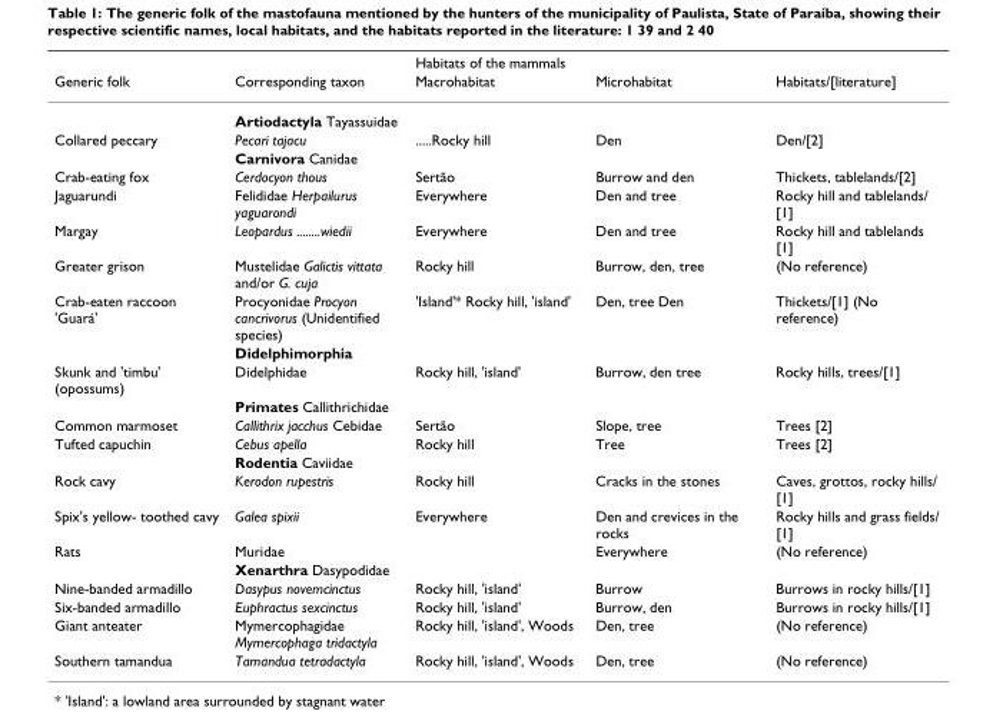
<table><thead><tr><td rowspan="2">Generic folk</td><td rowspan="2">Corresponding taxon</td><td colspan="2">Habitats of the mammals</td><td rowspan="2">Habitats/[literature]</td></tr><tr><td>Macrohabitat</td><td>Microhabitat</td></tr></thead><tbody><tr><td></td><td>Artiodactyla Tayassuidae</td><td></td><td></td><td></td></tr><tr><td rowspan="2">Collared peccary</td><td>Pecari tajacu</td><td>.....Rocky hill</td><td>Den</td><td>Den/[2]</td></tr><tr><td>Carnivora Canidae</td><td></td><td></td><td></td></tr><tr><td>Crab-eating fox</td><td>Cerdocyon thous</td><td>Sertão</td><td>Burrow and den</td><td>Thickets, tablelands/[2]</td></tr><tr><td>Jaguarundi</td><td>Felididae Herpailurus yaguarondi</td><td>Everywhere</td><td>Den and tree</td><td>Rocky hill and tablelands/ [1]</td></tr><tr><td>Margay</td><td>Leopardus ........wiedii</td><td>Everywhere</td><td>Den and tree</td><td>Rocky hill and tablelands [1]</td></tr><tr><td>Greater grison</td><td>Mustelidae Galictis vittata and/or G. cuja</td><td>Rocky hill</td><td>Burrow, den, tree</td><td>(No reference)</td></tr><tr><td rowspan="2">Crab-eaten raccoon &#x27;Guará&#x27;</td><td>Procyonidae Procyon cancrivorus (Unidentified species)</td><td>&#x27;Island&#x27;* Rocky hill, &#x27;island&#x27;</td><td>Den, tree Den</td><td>Thickets/[1] (No reference)</td></tr><tr><td>Didelphimorphia</td><td></td><td></td><td></td></tr><tr><td rowspan="2">Skunk and &#x27;timbu&#x27; (opossums)</td><td>Didelphidae</td><td>Rocky hill, &#x27;island&#x27;</td><td>Burrow, den tree</td><td>Rocky hills, trees/[1]</td></tr><tr><td>Primates Callithrichidae</td><td></td><td></td><td></td></tr><tr><td>Common marmoset</td><td>Callithrix jacchus Cebidae</td><td>Sertão</td><td>Slope, tree</td><td>Trees [2]</td></tr><tr><td rowspan="2">Tufted capuchin</td><td>Cebus apella</td><td>Rocky hill</td><td>Tree</td><td>Trees [2]</td></tr><tr><td>Rodentia Caviidae</td><td></td><td></td><td></td></tr><tr><td>Rock cavy</td><td>Kerodon rupestris</td><td>Rocky hill</td><td>Cracks in the stones</td><td>Caves, grottos, rocky hills/ [1]</td></tr><tr><td>Spix&#x27;s yellow- toothed cavy</td><td>Galea spixii</td><td>Everywhere</td><td>Den and crevices in the rocks</td><td>Rocky hills and grass fields/ [1]</td></tr><tr><td rowspan="2">Rats</td><td>Muridae</td><td></td><td>Everywhere</td><td>(No reference)</td></tr><tr><td>Xenarthra Dasypodidae</td><td></td><td></td><td></td></tr><tr><td>Nine-banded armadillo</td><td>Dasypus novemcinctus</td><td>Rocky hill, &#x27;island&#x27;</td><td>Burrow</td><td>Burrows in rocky hills/[1]</td></tr><tr><td>Six-banded armadillo</td><td>Euphractus sexcinctus</td><td>Rocky hill, &#x27;island&#x27;</td><td>Burrow, den</td><td>Burrows in rocky hills/[1]</td></tr><tr><td>Giant anteater</td><td>Mymercophagidae Mymercophaga tridactyla</td><td>Rocky hill, &#x27;island&#x27;, Woods</td><td>Den, tree</td><td>(No reference)</td></tr><tr><td>Southern tamandua</td><td>Tamandua tetradactyla</td><td>Rocky hill, &#x27;island&#x27;, Woods</td><td>Den, tree</td><td>(No reference)</td></tr></tbody></table>